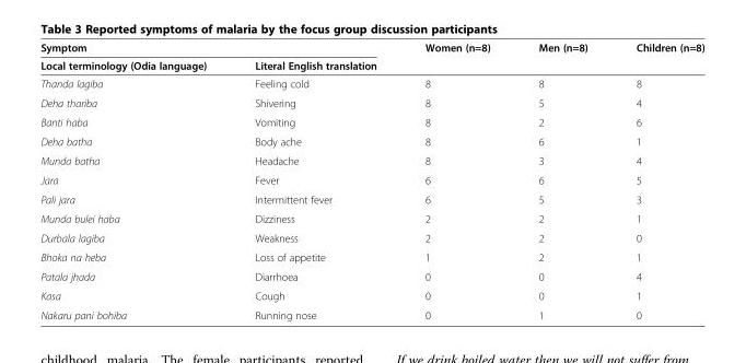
<table><thead><tr><td colspan="2">Symptom</td><td rowspan="2">Women (n=8)</td><td rowspan="2">Men (n=8)</td><td rowspan="2">Children (n=8)</td></tr><tr><td>Local terminology (Odia language)</td><td>Literal English translation</td></tr></thead><tbody><tr><td>Thanda lagiba</td><td>Feeling cold</td><td>8</td><td>8</td><td>8</td></tr><tr><td>Deha thariba</td><td>Shivering</td><td>8</td><td>5</td><td>4</td></tr><tr><td>Banti haba</td><td>Vomiting</td><td>8</td><td>2</td><td>6</td></tr><tr><td>Deha batha</td><td>Body ache</td><td>8</td><td>6</td><td>1</td></tr><tr><td>Munda batha</td><td>Headache</td><td>8</td><td>3</td><td>4</td></tr><tr><td>Jara</td><td>Fever</td><td>6</td><td>6</td><td>5</td></tr><tr><td>Pali jara</td><td>Intermittent fever</td><td>6</td><td>5</td><td>3</td></tr><tr><td>Munda bulei haba</td><td>Dizziness</td><td>2</td><td>2</td><td>1</td></tr><tr><td>Durbala lagiba</td><td>Weakness</td><td>2</td><td>2</td><td>0</td></tr><tr><td>Bhoka na heba</td><td>Loss of appetite</td><td>1</td><td>2</td><td>1</td></tr><tr><td>Patala jhada</td><td>Diarrhoea</td><td>0</td><td>0</td><td>4</td></tr><tr><td>Kasa</td><td>Cough</td><td>0</td><td>0</td><td>1</td></tr><tr><td>Nakaru pani bohiba</td><td>Running nose</td><td>0</td><td>1</td><td>0</td></tr></tbody></table>